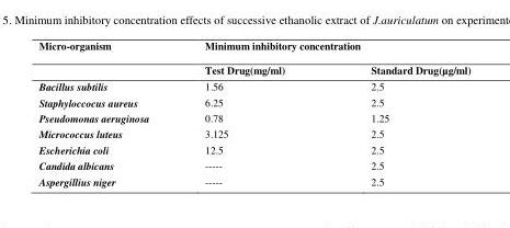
<table><thead><tr><td rowspan="2">Micro-organism</td><td colspan="2">Minimum inhibitory concentration</td></tr><tr><td>Test Drug(mg/ml)</td><td>Standard Drug(µg/ml)</td></tr></thead><tbody><tr><td>Bacillus subtilis</td><td>1.56</td><td>2.5</td></tr><tr><td>Staphyloccocus aureus</td><td>6.25</td><td>2.5</td></tr><tr><td>Pseudomonas aeruginosa</td><td>0.78</td><td>1.25</td></tr><tr><td>Micrococcus luteus</td><td>3.125</td><td>2.5</td></tr><tr><td>Escherichia coli</td><td>12.5</td><td>2.5</td></tr><tr><td>Candida albicans</td><td>-----</td><td>2.5</td></tr><tr><td>Aspergillius niger</td><td>-----</td><td>2.5</td></tr></tbody></table>